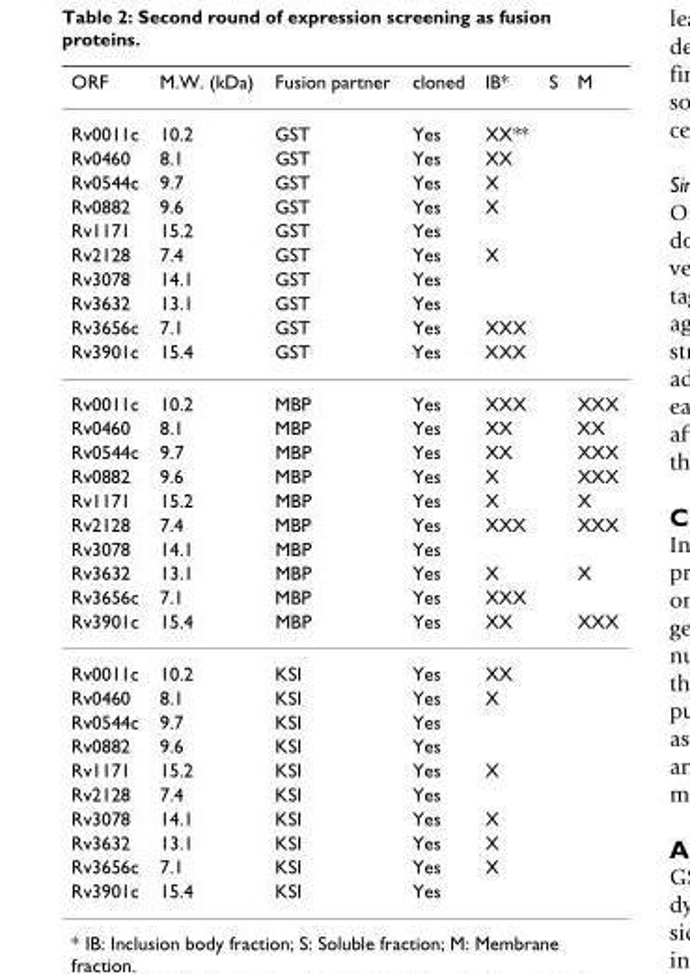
<table><thead><tr><td>ORF</td><td>M.W. (kDa)</td><td>Fusion partner</td><td>cloned</td><td>IB*</td><td>S</td><td>M</td></tr></thead><tbody><tr><td>Rv0011c</td><td>10.2</td><td>GST</td><td>Yes</td><td>XX**</td><td></td><td></td></tr><tr><td>Rv0460</td><td>8.1</td><td>GST</td><td>Yes</td><td>XX</td><td></td><td></td></tr><tr><td>Rv0544c</td><td>9.7</td><td>GST</td><td>Yes</td><td>X</td><td></td><td></td></tr><tr><td>Rv0882</td><td>9.6</td><td>GST</td><td>Yes</td><td>X</td><td></td><td></td></tr><tr><td>Rv1171</td><td>15.2</td><td>GST</td><td>Yes</td><td></td><td></td><td></td></tr><tr><td>Rv2128</td><td>7.4</td><td>GST</td><td>Yes</td><td>X</td><td></td><td></td></tr><tr><td>Rv3078</td><td>14.1</td><td>GST</td><td>Yes</td><td></td><td></td><td></td></tr><tr><td>Rv3632</td><td>13.1</td><td>GST</td><td>Yes</td><td></td><td></td><td></td></tr><tr><td>Rv3656c</td><td>7.1</td><td>GST</td><td>Yes</td><td>XXX</td><td></td><td></td></tr><tr><td>Rv3901c</td><td>15.4</td><td>GST</td><td>Yes</td><td>XXX</td><td></td><td></td></tr><tr><td>Rv0011c</td><td>10.2</td><td>MBP</td><td>Yes</td><td>XXX</td><td></td><td>XXX</td></tr><tr><td>Rv0460</td><td>8.1</td><td>MBP</td><td>Yes</td><td>XX</td><td></td><td>XX</td></tr><tr><td>Rv0544c</td><td>9.7</td><td>MBP</td><td>Yes</td><td>XX</td><td></td><td>XXX</td></tr><tr><td>Rv0882</td><td>9.6</td><td>MBP</td><td>Yes</td><td>X</td><td></td><td>XXX</td></tr><tr><td>Rv1171</td><td>15.2</td><td>MBP</td><td>Yes</td><td>X</td><td></td><td>X</td></tr><tr><td>Rv2128</td><td>7.4</td><td>MBP</td><td>Yes</td><td>XXX</td><td></td><td>XXX</td></tr><tr><td>Rv3078</td><td>14.1</td><td>MBP</td><td>Yes</td><td></td><td></td><td></td></tr><tr><td>Rv3632</td><td>13.1</td><td>MBP</td><td>Yes</td><td>X</td><td></td><td>X</td></tr><tr><td>Rv3656c</td><td>7.1</td><td>MBP</td><td>Yes</td><td>XXX</td><td></td><td></td></tr><tr><td>Rv3901c</td><td>15.4</td><td>MBP</td><td>Yes</td><td>XX</td><td></td><td>XXX</td></tr><tr><td>Rv0011c</td><td>10.2</td><td>KSI</td><td>Yes</td><td>XX</td><td></td><td></td></tr><tr><td>Rv0460</td><td>8.1</td><td>KSI</td><td>Yes</td><td>X</td><td></td><td></td></tr><tr><td>Rv0544c</td><td>9.7</td><td>KSI</td><td>Yes</td><td></td><td></td><td></td></tr><tr><td>Rv0882</td><td>9.6</td><td>KSI</td><td>Yes</td><td></td><td></td><td></td></tr><tr><td>Rv1171</td><td>15.2</td><td>KSI</td><td>Yes</td><td>X</td><td></td><td></td></tr><tr><td>Rv2128</td><td>7.4</td><td>KSI</td><td>Yes</td><td></td><td></td><td></td></tr><tr><td>Rv3078</td><td>14.1</td><td>KSI</td><td>Yes</td><td>X</td><td></td><td></td></tr><tr><td>Rv3632</td><td>13.1</td><td>KSI</td><td>Yes</td><td>X</td><td></td><td></td></tr><tr><td>Rv3656c</td><td>7.1</td><td>KSI</td><td>Yes</td><td>X</td><td></td><td></td></tr><tr><td>Rv3901c</td><td>15.4</td><td>KSI</td><td>Yes</td><td></td><td></td><td></td></tr></tbody></table>